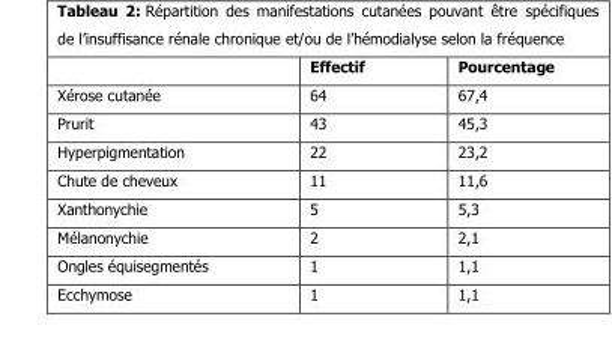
<table><thead><tr><td></td><td>Effectif</td><td>Pourcentage</td></tr></thead><tbody><tr><td>Xérose cutanée</td><td>64</td><td>67,4</td></tr><tr><td>Prurit</td><td>43</td><td>45,3</td></tr><tr><td>Hyperpigmentation</td><td>22</td><td>23,2</td></tr><tr><td>Chute de cheveux</td><td>11</td><td>11,6</td></tr><tr><td>Xanthonychie</td><td>5</td><td>5,3</td></tr><tr><td>Mélanonychie</td><td>2</td><td>2,1</td></tr><tr><td>Ongles équisegmentés</td><td>1</td><td>1,1</td></tr><tr><td>Ecchymose</td><td>1</td><td>1,1</td></tr></tbody></table>